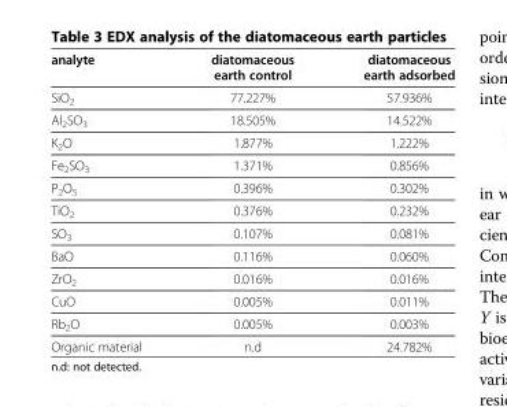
<table><thead><tr><td>analyte</td><td>diatomaceous earth control</td><td>diatomaceous earth adsorbed</td></tr></thead><tbody><tr><td>SiO<sub>2</sub></td><td>77.227%</td><td>57.936%</td></tr><tr><td>Al<sub>2</sub>SO<sub>3</sub></td><td>18.505%</td><td>14.522%</td></tr><tr><td>K<sub>2</sub>O</td><td>1.877%</td><td>1.222%</td></tr><tr><td>Fe<sub>2</sub>SO<sub>3</sub></td><td>1.371%</td><td>0.856%</td></tr><tr><td>P<sub>2</sub>O<sub>5</sub></td><td>0.396%</td><td>0.302%</td></tr><tr><td>TiO<sub>2</sub></td><td>0.376%</td><td>0.232%</td></tr><tr><td>SO<sub>3</sub></td><td>0.107%</td><td>0.081%</td></tr><tr><td>BaO</td><td>0.116%</td><td>0.060%</td></tr><tr><td>ZrO<sub>2</sub></td><td>0.016%</td><td>0.016%</td></tr><tr><td>CuO</td><td>0.005%</td><td>0.011%</td></tr><tr><td>Rb<sub>2</sub>O</td><td>0.005%</td><td>0.003%</td></tr><tr><td>Organic material</td><td>n.d</td><td>24.782%</td></tr></tbody></table>